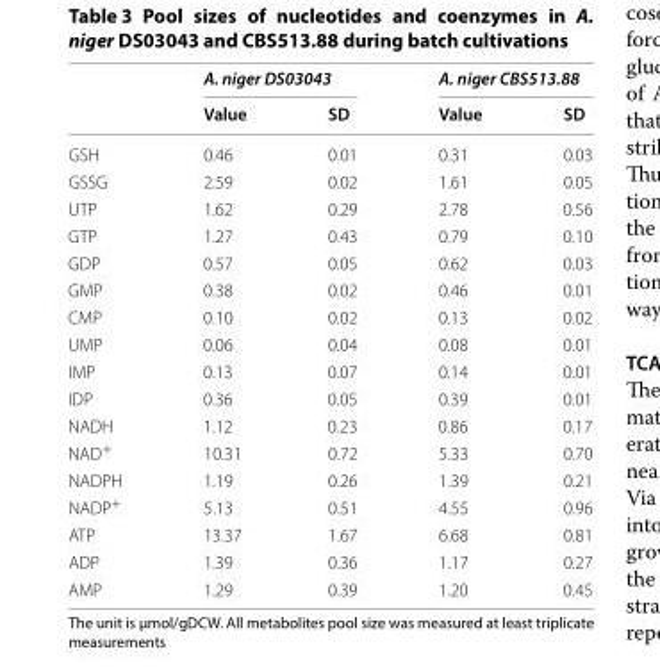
<table><thead><tr><td rowspan="2"></td><td colspan="2">A. niger DS03043</td><td colspan="2">A. niger CBS513.88</td></tr><tr><td>Value</td><td>SD</td><td>Value</td><td>SD</td></tr></thead><tbody><tr><td>GSH</td><td>0.46</td><td>0.01</td><td>0.31</td><td>0.03</td></tr><tr><td>GSSG</td><td>2.59</td><td>0.02</td><td>1.61</td><td>0.05</td></tr><tr><td>UTP</td><td>1.62</td><td>0.29</td><td>2.78</td><td>0.56</td></tr><tr><td>GTP</td><td>1.27</td><td>0.43</td><td>0.79</td><td>0.10</td></tr><tr><td>GDP</td><td>0.57</td><td>0.05</td><td>0.62</td><td>0.03</td></tr><tr><td>GMP</td><td>0.38</td><td>0.02</td><td>0.46</td><td>0.01</td></tr><tr><td>CMP</td><td>0.10</td><td>0.02</td><td>0.13</td><td>0.02</td></tr><tr><td>UMP</td><td>0.06</td><td>0.04</td><td>0.08</td><td>0.01</td></tr><tr><td>IMP</td><td>0.13</td><td>0.07</td><td>0.14</td><td>0.01</td></tr><tr><td>IDP</td><td>0.36</td><td>0.05</td><td>0.39</td><td>0.01</td></tr><tr><td>NADH</td><td>1.12</td><td>0.23</td><td>0.86</td><td>0.17</td></tr><tr><td>NAD<sup>+</sup></td><td>10.31</td><td>0.72</td><td>5.33</td><td>0.70</td></tr><tr><td>NADPH</td><td>1.19</td><td>0.26</td><td>1.39</td><td>0.21</td></tr><tr><td>NADP<sup>+</sup></td><td>5.13</td><td>0.51</td><td>4.55</td><td>0.96</td></tr><tr><td>ATP</td><td>13.37</td><td>1.67</td><td>6.68</td><td>0.81</td></tr><tr><td>ADP</td><td>1.39</td><td>0.36</td><td>1.17</td><td>0.27</td></tr><tr><td>AMP</td><td>1.29</td><td>0.39</td><td>1.20</td><td>0.45</td></tr></tbody></table>